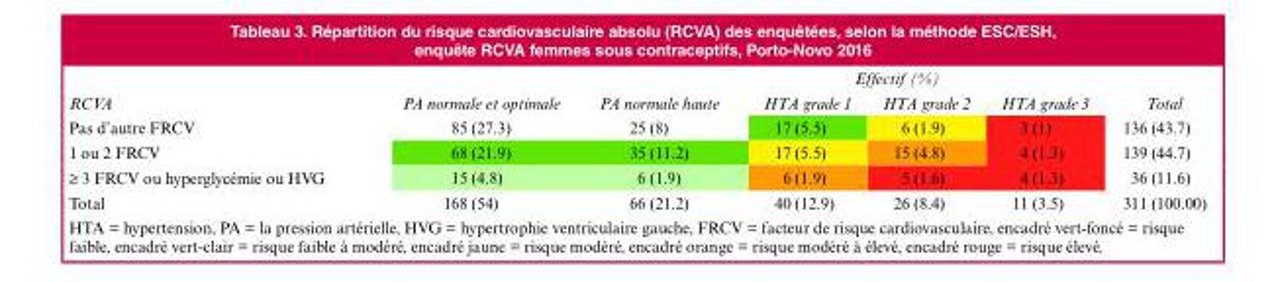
<table><thead><tr><td rowspan="2">RCVA</td><td rowspan="2">PA normale et optimale</td><td rowspan="2">PA normale haute</td><td colspan="2">Effectif (%)</td><td rowspan="2">HTA grade 3</td><td rowspan="2">Total</td></tr><tr><td>HTA grade 1</td><td>HTA grade 2</td></tr></thead><tbody><tr><td>Pas d’autre FRCV</td><td>85 (27.3)</td><td>25 (8)</td><td>17 (5.5)</td><td>6 (1.9)</td><td>3 (1)</td><td>136 (43.7)</td></tr><tr><td>1 ou 2 FRCV</td><td>68 (21.9)</td><td>35 (11.2)</td><td>17 (5.5)</td><td>15 (4.8)</td><td>4 (1.3)</td><td>139 (44.7)</td></tr><tr><td>≥ 3 FRCV ou hyperglycémie ou HVG</td><td>15 (4.8)</td><td>6 (1.9)</td><td>6 (1.9)</td><td>5 (1.6)</td><td>4 (1.3)</td><td>36 (11.6)</td></tr><tr><td>Total</td><td>168 (54)</td><td>66 (21.2)</td><td>40 (12.9)</td><td>26 (8.4)</td><td>11 (3.5)</td><td>311 (100.00)</td></tr></tbody></table>